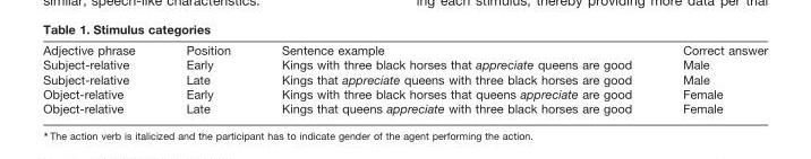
<table><thead><tr><td>Adjective phrase</td><td>Position</td><td>Sentence example</td><td>Correct answer</td></tr></thead><tbody><tr><td>Subject-relative</td><td>Early</td><td>Kings with three black horses that appreciate queens are good</td><td>Male</td></tr><tr><td>Subject-relative</td><td>Late</td><td>Kings that appreciate queens with three black horses are good</td><td>Male</td></tr><tr><td>Object-relative</td><td>Early</td><td>Kings with three black horses that queens appreciate are good</td><td>Female</td></tr><tr><td>Object-relative</td><td>Late</td><td>Kings that queens appreciate with three black horses are good</td><td>Female</td></tr></tbody></table>